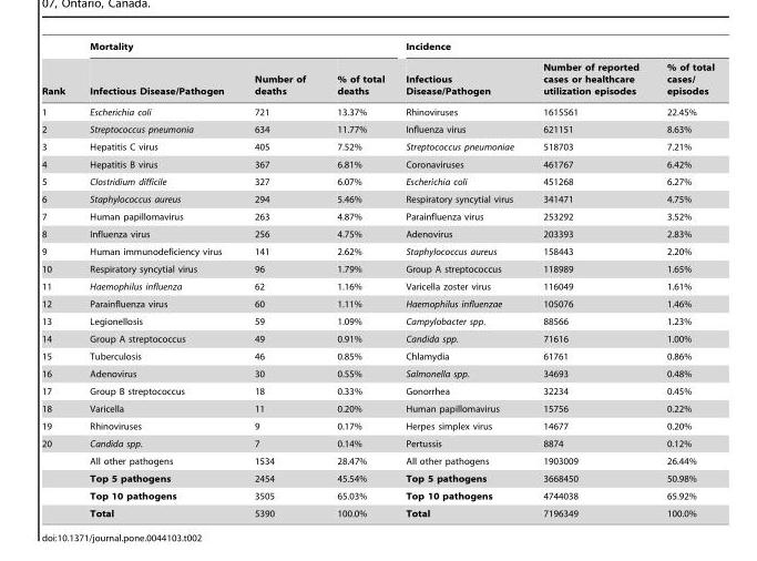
<table><thead><tr><td rowspan="2">Rank</td><td colspan="3">Mortality</td><td colspan="3">Incidence</td></tr><tr><td>Infectious Disease/Pathogen</td><td>Number of deaths</td><td>% of total deaths</td><td>Infectious Disease/Pathogen</td><td>Number of reported cases or healthcare utilization episodes</td><td>% of total cases/ episodes</td></tr></thead><tbody><tr><td>1</td><td>Escherichia coli</td><td>721</td><td>13.37%</td><td>Rhinoviruses</td><td>1615561</td><td>22.45%</td></tr><tr><td>2</td><td>Streptococcus pneumonia</td><td>634</td><td>11.77%</td><td>Influenza virus</td><td>621151</td><td>8.63%</td></tr><tr><td>3</td><td>Hepatitis C virus</td><td>405</td><td>7.52%</td><td>Streptococcus pneumoniae</td><td>518703</td><td>7.21%</td></tr><tr><td>4</td><td>Hepatitis B virus</td><td>367</td><td>6.81%</td><td>Coronaviruses</td><td>461767</td><td>6.42%</td></tr><tr><td>5</td><td>Clostridium difficile</td><td>327</td><td>6.07%</td><td>Escherichia coli</td><td>451268</td><td>6.27%</td></tr><tr><td>6</td><td>Staphylococcus aureus</td><td>294</td><td>5.46%</td><td>Respiratory syncytial virus</td><td>341471</td><td>4.75%</td></tr><tr><td>7</td><td>Human papillomavirus</td><td>263</td><td>4.87%</td><td>Parainfluenza virus</td><td>253292</td><td>3.52%</td></tr><tr><td>8</td><td>Influenza virus</td><td>256</td><td>4.75%</td><td>Adenovirus</td><td>203393</td><td>2.83%</td></tr><tr><td>9</td><td>Human immunodeficiency virus</td><td>141</td><td>2.62%</td><td>Staphylococcus aureus</td><td>158443</td><td>2.20%</td></tr><tr><td>10</td><td>Respiratory syncytial virus</td><td>96</td><td>1.79%</td><td>Group A streptococcus</td><td>118989</td><td>1.65%</td></tr><tr><td>11</td><td>Haemophilus influenza</td><td>62</td><td>1.16%</td><td>Varicella zoster virus</td><td>116049</td><td>1.61%</td></tr><tr><td>12</td><td>Parainfluenza virus</td><td>60</td><td>1.11%</td><td>Haemophilus influenzae</td><td>105076</td><td>1.46%</td></tr><tr><td>13</td><td>Legionellosis</td><td>59</td><td>1.09%</td><td>Campylobacter spp.</td><td>88566</td><td>1.23%</td></tr><tr><td>14</td><td>Group A streptococcus</td><td>49</td><td>0.91%</td><td>Candida spp.</td><td>71616</td><td>1.00%</td></tr><tr><td>15</td><td>Tuberculosis</td><td>46</td><td>0.85%</td><td>Chlamydia</td><td>61761</td><td>0.86%</td></tr><tr><td>16</td><td>Adenovirus</td><td>30</td><td>0.55%</td><td>Salmonella spp.</td><td>34693</td><td>0.48%</td></tr><tr><td>17</td><td>Group B streptococcus</td><td>18</td><td>0.33%</td><td>Gonorrhea</td><td>32234</td><td>0.45%</td></tr><tr><td>18</td><td>Varicella</td><td>11</td><td>0.20%</td><td>Human papillomavirus</td><td>15756</td><td>0.22%</td></tr><tr><td>19</td><td>Rhinoviruses</td><td>9</td><td>0.17%</td><td>Herpes simplex virus</td><td>14677</td><td>0.20%</td></tr><tr><td rowspan="5">20</td><td>Candida spp.</td><td>7</td><td>0.14%</td><td>Pertussis</td><td>8874</td><td>0.12%</td></tr><tr><td>All other pathogens</td><td>1534</td><td>28.47%</td><td>All other pathogens</td><td>1903009</td><td>26.44%</td></tr><tr><td>Top 5 pathogens</td><td>2454</td><td>45.54%</td><td>Top 5 pathogens</td><td>3668450</td><td>50.98%</td></tr><tr><td>Top 10 pathogens</td><td>3505</td><td>65.03%</td><td>Top 10 pathogens</td><td>4744038</td><td>65.92%</td></tr><tr><td>Total</td><td>5390</td><td>100.0%</td><td>Total</td><td>7196349</td><td>100.0%</td></tr></tbody></table>